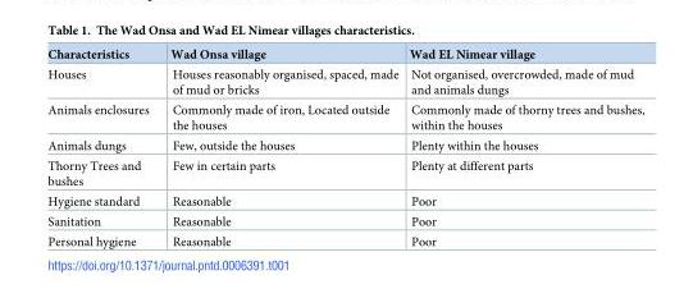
<table><thead><tr><td>Characteristics</td><td>Wad Onsa village</td><td>Wad EL Nimear village</td></tr></thead><tbody><tr><td>Houses</td><td>Houses reasonably organised, spaced, made of mud or bricks</td><td>Not organised, overcrowded, made of mud and animals dungs</td></tr><tr><td>Animals enclosures</td><td>Commonly made of iron, Located outside the houses</td><td>Commonly made of thorny trees and bushes, within the houses</td></tr><tr><td>Animals dungs</td><td>Few, outside the houses</td><td>Plenty within the houses</td></tr><tr><td>Thorny Trees and bushes</td><td>Few in certain parts</td><td>Plenty at different parts</td></tr><tr><td>Hygiene standard</td><td>Reasonable</td><td>Poor</td></tr><tr><td>Sanitation</td><td>Reasonable</td><td>Poor</td></tr><tr><td>Personal hygiene</td><td>Reasonable</td><td>Poor</td></tr></tbody></table>